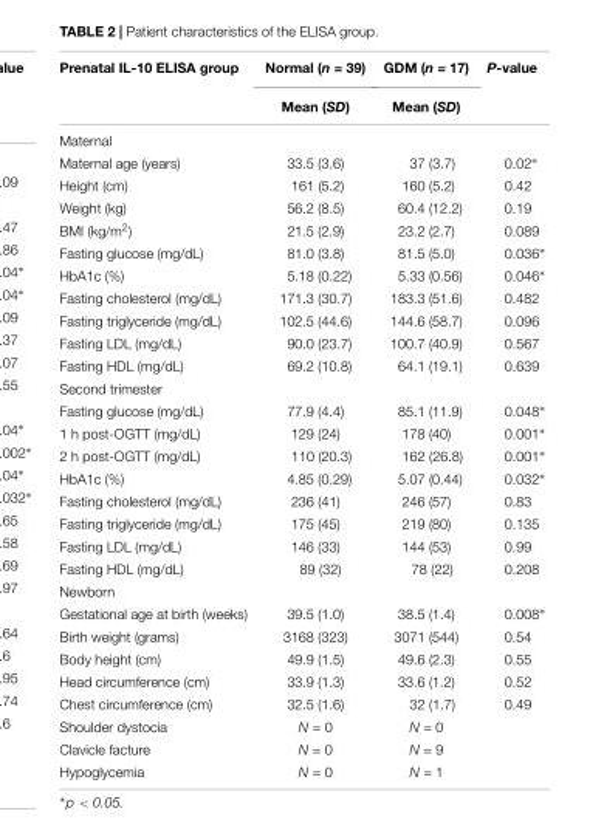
<table><thead><tr><td rowspan="2">Prenatal IL-10 ELISA group</td><td rowspan="2">Normal (n = 39) Mean (SD)</td><td rowspan="2">GDM (n = 17) Mean (SD)</td><td rowspan="2">P-value</td></tr><tr></tr></thead><tbody><tr><td colspan="4">Maternal</td></tr><tr><td>Maternal age (years)</td><td>33.5 (3.6)</td><td>37 (3.7)</td><td>0.02∗</td></tr><tr><td>Height (cm)</td><td>161 (5.2)</td><td>160 (5.2)</td><td>0.42</td></tr><tr><td>Weight (kg)</td><td>56.2 (8.5)</td><td>60.4 (12.2)</td><td>0.19</td></tr><tr><td>BMI (kg/m<sup>2</sup>)</td><td>21.5 (2.9)</td><td>23.2 (2.7)</td><td>0.089</td></tr><tr><td>Fasting glucose (mg/dL)</td><td>81.0 (3.8)</td><td>81.5 (5.0)</td><td>0.036∗</td></tr><tr><td>HbA1c (%)</td><td>5.18 (0.22)</td><td>5.33 (0.56)</td><td>0.046∗</td></tr><tr><td>Fasting cholesterol (mg/dL)</td><td>171.3 (30.7)</td><td>183.3 (51.6)</td><td>0.482</td></tr><tr><td>Fasting triglyceride (mg/dL)</td><td>102.5 (44.6)</td><td>144.6 (58.7)</td><td>0.096</td></tr><tr><td>Fasting LDL (mg/dL)</td><td>90.0 (23.7)</td><td>100.7 (40.9)</td><td>0.567</td></tr><tr><td>Fasting HDL (mg/dL)</td><td>69.2 (10.8)</td><td>64.1 (19.1)</td><td>0.639</td></tr><tr><td colspan="4">Second trimester</td></tr><tr><td>Fasting glucose (mg/dL)</td><td>77.9 (4.4)</td><td>85.1 (11.9)</td><td>0.048∗</td></tr><tr><td>1 h post-OGTT (mg/dL)</td><td>129 (24)</td><td>178 (40)</td><td>0.001∗</td></tr><tr><td>2 h post-OGTT (mg/dL)</td><td>110 (20.3)</td><td>162 (26.8)</td><td>0.001∗</td></tr><tr><td>HbA1c (%)</td><td>4.85 (0.29)</td><td>5.07 (0.44)</td><td>0.032∗</td></tr><tr><td>Fasting cholesterol (mg/dL)</td><td>236 (41)</td><td>246 (57)</td><td>0.83</td></tr><tr><td>Fasting triglyceride (mg/dL)</td><td>175 (45)</td><td>219 (80)</td><td>0.135</td></tr><tr><td>Fasting LDL (mg/dL)</td><td>146 (33)</td><td>144 (53)</td><td>0.99</td></tr><tr><td>Fasting HDL (mg/dL)</td><td>89 (32)</td><td>78 (22)</td><td>0.208</td></tr><tr><td colspan="4">Newborn</td></tr><tr><td>Gestational age at birth (weeks)</td><td>39.5 (1.0)</td><td>38.5 (1.4)</td><td>0.008∗</td></tr><tr><td>Birth weight (grams)</td><td>3168 (323)</td><td>3071 (544)</td><td>0.54</td></tr><tr><td>Body height (cm)</td><td>49.9 (1.5)</td><td>49.6 (2.3)</td><td>0.55</td></tr><tr><td>Head circumference (cm)</td><td>33.9 (1.3)</td><td>33.6 (1.2)</td><td>0.52</td></tr><tr><td>Chest circumference (cm)</td><td>32.5 (1.6)</td><td>32 (1.7)</td><td>0.49</td></tr><tr><td>Shoulder dystocia</td><td>N = 0</td><td>N = 0</td><td></td></tr><tr><td>Clavicle facture</td><td>N = 0</td><td>N = 9</td><td></td></tr><tr><td>Hypoglycemia</td><td>N = 0</td><td>N = 1</td><td></td></tr></tbody></table>